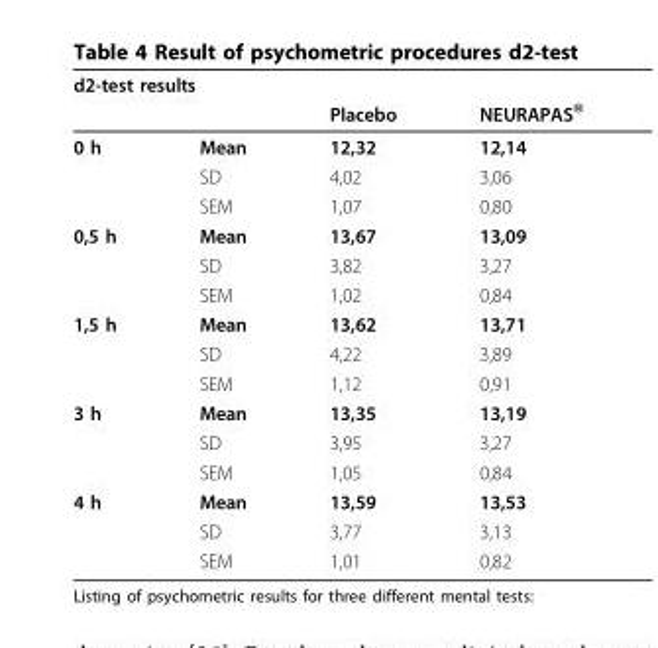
<table><thead><tr><td colspan="4">d2-test results</td></tr><tr><td></td><td></td><td>Placebo</td><td>NEURAPAS<sup>®</sup></td></tr></thead><tbody><tr><td rowspan="3">0 h</td><td>Mean</td><td>12,32</td><td>12,14</td></tr><tr><td>SD</td><td>4,02</td><td>3,06</td></tr><tr><td>SEM</td><td>1,07</td><td>0,80</td></tr><tr><td rowspan="3">0,5 h</td><td>Mean</td><td>13,67</td><td>13,09</td></tr><tr><td>SD</td><td>3,82</td><td>3,27</td></tr><tr><td>SEM</td><td>1,02</td><td>0,84</td></tr><tr><td rowspan="3">1,5 h</td><td>Mean</td><td>13,62</td><td>13,71</td></tr><tr><td>SD</td><td>4,22</td><td>3,89</td></tr><tr><td>SEM</td><td>1,12</td><td>0,91</td></tr><tr><td rowspan="3">3 h</td><td>Mean</td><td>13,35</td><td>13,19</td></tr><tr><td>SD</td><td>3,95</td><td>3,27</td></tr><tr><td>SEM</td><td>1,05</td><td>0,84</td></tr><tr><td rowspan="3">4 h</td><td>Mean</td><td>13,59</td><td>13,53</td></tr><tr><td>SD</td><td>3,77</td><td>3,13</td></tr><tr><td>SEM</td><td>1,01</td><td>0,82</td></tr></tbody></table>